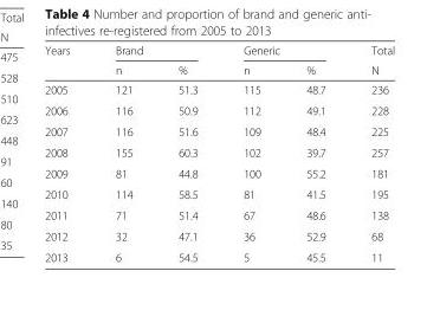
<table><thead><tr><td rowspan="2">Years</td><td colspan="2">Brand</td><td colspan="2">Generic</td><td rowspan="2">Total N</td></tr><tr><td>n</td><td>%</td><td>n</td><td>%</td></tr></thead><tbody><tr><td>2005</td><td>121</td><td>51.3</td><td>115</td><td>48.7</td><td>236</td></tr><tr><td>2006</td><td>116</td><td>50.9</td><td>112</td><td>49.1</td><td>228</td></tr><tr><td>2007</td><td>116</td><td>51.6</td><td>109</td><td>48.4</td><td>225</td></tr><tr><td>2008</td><td>155</td><td>60.3</td><td>102</td><td>39.7</td><td>257</td></tr><tr><td>2009</td><td>81</td><td>44.8</td><td>100</td><td>55.2</td><td>181</td></tr><tr><td>2010</td><td>114</td><td>58.5</td><td>81</td><td>41.5</td><td>195</td></tr><tr><td>2011</td><td>71</td><td>51.4</td><td>67</td><td>48.6</td><td>138</td></tr><tr><td>2012</td><td>32</td><td>47.1</td><td>36</td><td>52.9</td><td>68</td></tr><tr><td>2013</td><td>6</td><td>54.5</td><td>5</td><td>45.5</td><td>11</td></tr></tbody></table>